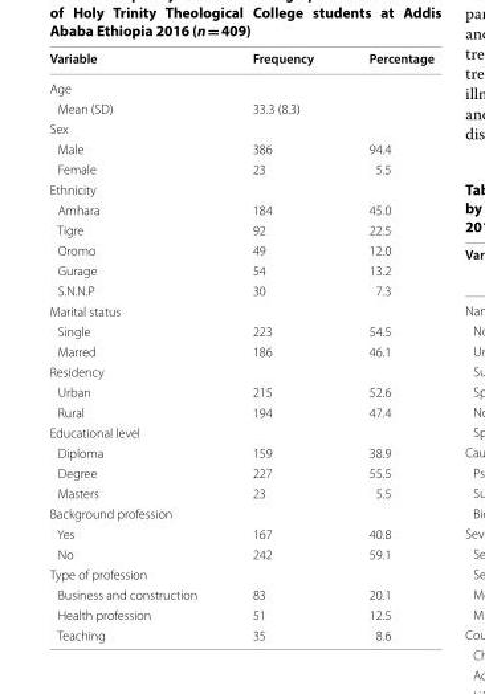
<table><thead><tr><td>Variable</td><td>Frequency</td><td>Percentage</td></tr></thead><tbody><tr><td colspan="3">Age</td></tr><tr><td>Mean (SD)</td><td>33.3 (8.3)</td><td></td></tr><tr><td colspan="3">Sex</td></tr><tr><td>Male</td><td>386</td><td>94.4</td></tr><tr><td>Female</td><td>23</td><td>5.5</td></tr><tr><td colspan="3">Ethnicity</td></tr><tr><td>Amhara</td><td>184</td><td>45.0</td></tr><tr><td>Tigre</td><td>92</td><td>22.5</td></tr><tr><td>Oromo</td><td>49</td><td>12.0</td></tr><tr><td>Gurage</td><td>54</td><td>13.2</td></tr><tr><td>S.N.N.P</td><td>30</td><td>7.3</td></tr><tr><td colspan="3">Marital status</td></tr><tr><td>Single</td><td>223</td><td>54.5</td></tr><tr><td>Marred</td><td>186</td><td>46.1</td></tr><tr><td colspan="3">Residency</td></tr><tr><td>Urban</td><td>215</td><td>52.6</td></tr><tr><td>Rural</td><td>194</td><td>47.4</td></tr><tr><td colspan="3">Educational level</td></tr><tr><td>Diploma</td><td>159</td><td>38.9</td></tr><tr><td>Degree</td><td>227</td><td>55.5</td></tr><tr><td>Masters</td><td>23</td><td>5.5</td></tr><tr><td colspan="3">Background profession</td></tr><tr><td>Yes</td><td>167</td><td>40.8</td></tr><tr><td>No</td><td>242</td><td>59.1</td></tr><tr><td colspan="3">Type of profession</td></tr><tr><td>Business and construction</td><td>83</td><td>20.1</td></tr><tr><td>Health profession</td><td>51</td><td>12.5</td></tr><tr><td>Teaching</td><td>35</td><td>8.6</td></tr></tbody></table>